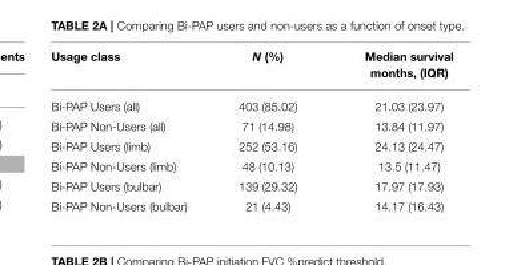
<table><thead><tr><td>Usage class</td><td>N (%)</td><td>Median survival months, (IQR)</td></tr></thead><tbody><tr><td>Bi-PAP Users (all)</td><td>403 (85.02)</td><td>21.03 (23.97)</td></tr><tr><td>Bi-PAP Non-Users (all)</td><td>71 (14.98)</td><td>13.84 (11.97)</td></tr><tr><td>Bi-PAP Users (limb)</td><td>252 (53.16)</td><td>24.13 (24.47)</td></tr><tr><td>Bi-PAP Non-Users (limb)</td><td>48 (10.13)</td><td>13.5 (11.47)</td></tr><tr><td>Bi-PAP Users (bulbar)</td><td>139 (29.32)</td><td>17.97 (17.93)</td></tr><tr><td>Bi-PAP Non-Users (bulbar)</td><td>21 (4.43)</td><td>14.17 (16.43)</td></tr></tbody></table>